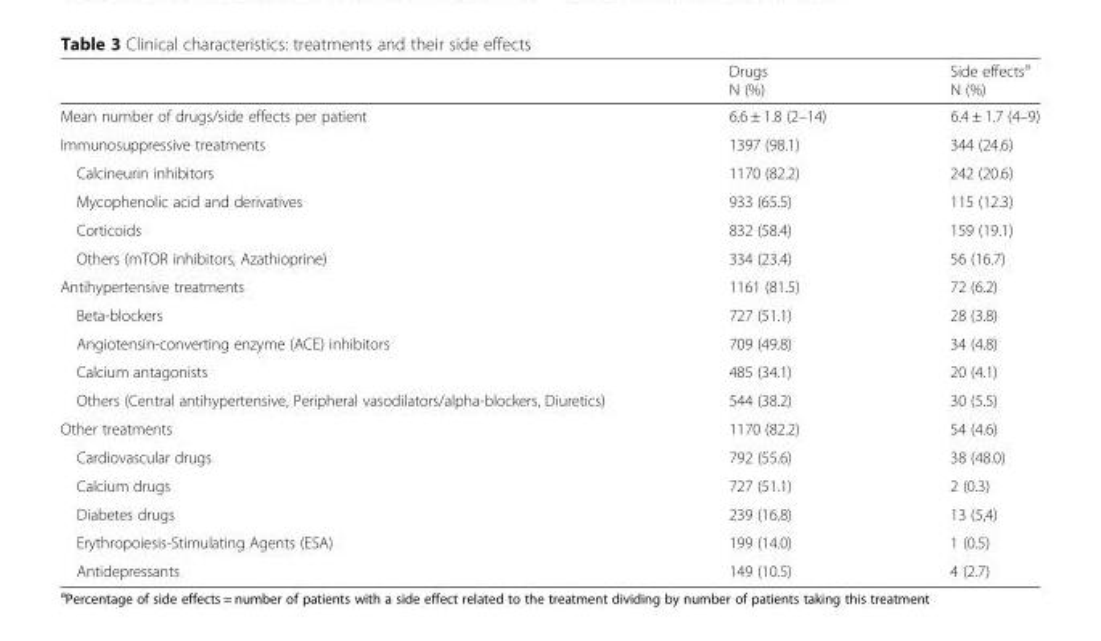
<table><thead><tr><td></td><td>Drugs N (%)</td><td>Side effects<sup>a</sup> N (%)</td></tr></thead><tbody><tr><td>Mean number of drugs/side effects per patient</td><td>6.6 ± 1.8 (2–14)</td><td>6.4 ± 1.7 (4–9)</td></tr><tr><td>Immunosuppressive treatments</td><td>1397 (98.1)</td><td>344 (24.6)</td></tr><tr><td>Calcineurin inhibitors</td><td>1170 (82.2)</td><td>242 (20.6)</td></tr><tr><td>Mycophenolic acid and derivatives</td><td>933 (65.5)</td><td>115 (12.3)</td></tr><tr><td>Corticoids</td><td>832 (58.4)</td><td>159 (19.1)</td></tr><tr><td>Others (mTOR inhibitors, Azathioprine)</td><td>334 (23.4)</td><td>56 (16.7)</td></tr><tr><td>Antihypertensive treatments</td><td>1161 (81.5)</td><td>72 (6.2)</td></tr><tr><td>Beta-blockers</td><td>727 (51.1)</td><td>28 (3.8)</td></tr><tr><td>Angiotensin-converting enzyme (ACE) inhibitors</td><td>709 (49.8)</td><td>34 (4.8)</td></tr><tr><td>Calcium antagonists</td><td>485 (34.1)</td><td>20 (4.1)</td></tr><tr><td>Others (Central antihypertensive, Peripheral vasodilators/alpha-blockers, Diuretics)</td><td>544 (38.2)</td><td>30 (5.5)</td></tr><tr><td>Other treatments</td><td>1170 (82.2)</td><td>54 (4.6)</td></tr><tr><td>Cardiovascular drugs</td><td>792 (55.6)</td><td>38 (48.0)</td></tr><tr><td>Calcium drugs</td><td>727 (51.1)</td><td>2 (0.3)</td></tr><tr><td>Diabetes drugs</td><td>239 (16.8)</td><td>13 (5,4)</td></tr><tr><td>Erythropoiesis-Stimulating Agents (ESA)</td><td>199 (14.0)</td><td>1 (0.5)</td></tr><tr><td>Antidepressants</td><td>149 (10.5)</td><td>4 (2.7)</td></tr></tbody></table>